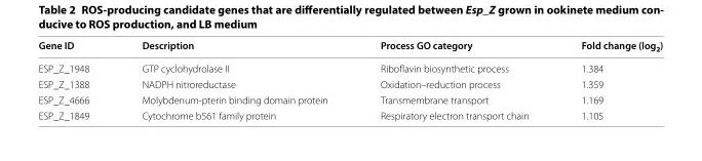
<table><thead><tr><td>Gene ID</td><td>Description</td><td>Process GO category</td><td>Fold change (log<sub>2</sub>)</td></tr></thead><tbody><tr><td>ESP_Z_1948</td><td>GTP cyclohydrolase II</td><td>Riboflavin biosynthetic process</td><td>1.384</td></tr><tr><td>ESP_Z_1388</td><td>NADPH nitroreductase</td><td>Oxidation–reduction process</td><td>1.359</td></tr><tr><td>ESP_Z_4666</td><td>Molybdenum-pterin binding domain protein</td><td>Transmembrane transport</td><td>1.169</td></tr><tr><td>ESP_Z_1849</td><td>Cytochrome b561 family protein</td><td>Respiratory electron transport chain</td><td>1.105</td></tr></tbody></table>